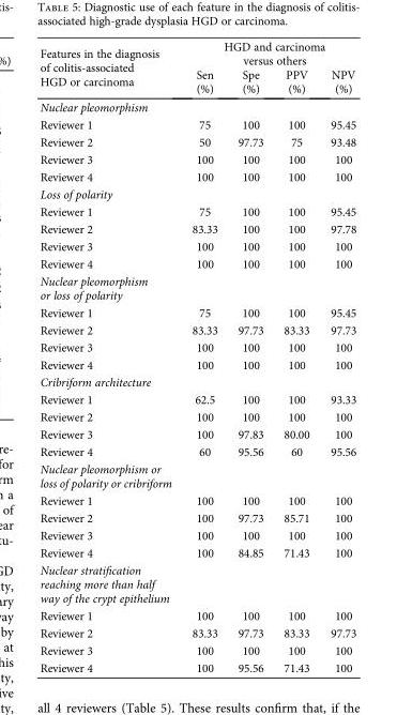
<table><thead><tr><td rowspan="2">Features in the diagnosis of colitis-associated HGD or carcinoma</td><td colspan="4">HGD and carcinoma versus others</td></tr><tr><td>Sen (%)</td><td>Spe (%)</td><td>PPV (%)</td><td>NPV (%)</td></tr></thead><tbody><tr><td colspan="5">Nuclear pleomorphism</td></tr><tr><td>Reviewer 1</td><td>75</td><td>100</td><td>100</td><td>95.45</td></tr><tr><td>Reviewer 2</td><td>50</td><td>97.73</td><td>75</td><td>93.48</td></tr><tr><td>Reviewer 3</td><td>100</td><td>100</td><td>100</td><td>100</td></tr><tr><td>Reviewer 4</td><td>100</td><td>100</td><td>100</td><td>100</td></tr><tr><td colspan="5">Loss of polarity</td></tr><tr><td>Reviewer 1</td><td>75</td><td>100</td><td>100</td><td>95.45</td></tr><tr><td>Reviewer 2</td><td>83.33</td><td>100</td><td>100</td><td>97.78</td></tr><tr><td>Reviewer 3</td><td>100</td><td>100</td><td>100</td><td>100</td></tr><tr><td>Reviewer 4</td><td>100</td><td>100</td><td>100</td><td>100</td></tr><tr><td colspan="5">Nuclear pleomorphism or loss of polarity</td></tr><tr><td>Reviewer 1</td><td>75</td><td>100</td><td>100</td><td>95.45</td></tr><tr><td>Reviewer 2</td><td>83.33</td><td>97.73</td><td>83.33</td><td>97.73</td></tr><tr><td>Reviewer 3</td><td>100</td><td>100</td><td>100</td><td>100</td></tr><tr><td>Reviewer 4</td><td>100</td><td>100</td><td>100</td><td>100</td></tr><tr><td colspan="5">Cribriform architecture</td></tr><tr><td>Reviewer 1</td><td>62.5</td><td>100</td><td>100</td><td>93.33</td></tr><tr><td>Reviewer 2</td><td>100</td><td>100</td><td>100</td><td>100</td></tr><tr><td>Reviewer 3</td><td>100</td><td>97.83</td><td>80.00</td><td>100</td></tr><tr><td>Reviewer 4</td><td>60</td><td>95.56</td><td>60</td><td>95.56</td></tr><tr><td colspan="5">Nuclear pleomorphism or loss of polarity or cribriform</td></tr><tr><td>Reviewer 1</td><td>100</td><td>100</td><td>100</td><td>100</td></tr><tr><td>Reviewer 2</td><td>100</td><td>97.73</td><td>85.71</td><td>100</td></tr><tr><td>Reviewer 3</td><td>100</td><td>100</td><td>100</td><td>100</td></tr><tr><td>Reviewer 4</td><td>100</td><td>84.85</td><td>71.43</td><td>100</td></tr><tr><td colspan="5">Nuclear stratification reaching more than half way of the crypt epithelium</td></tr><tr><td>Reviewer 1</td><td>100</td><td>100</td><td>100</td><td>100</td></tr><tr><td>Reviewer 2</td><td>83.33</td><td>97.73</td><td>83.33</td><td>97.73</td></tr><tr><td>Reviewer 3</td><td>100</td><td>100</td><td>100</td><td>100</td></tr><tr><td>Reviewer 4</td><td>100</td><td>95.56</td><td>71.43</td><td>100</td></tr></tbody></table>